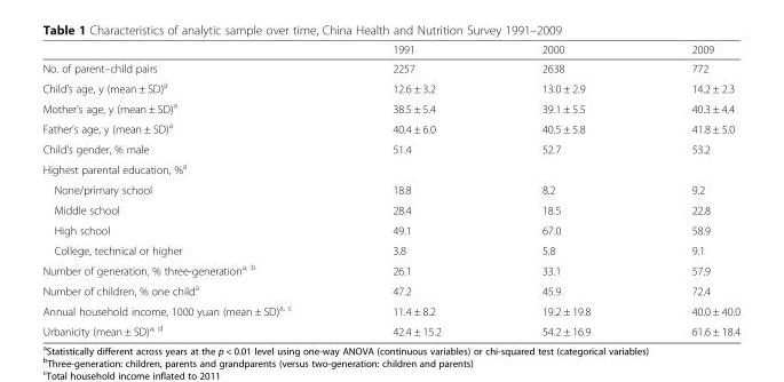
<table><thead><tr><td></td><td>1991</td><td>2000</td><td>2009</td></tr></thead><tbody><tr><td>No. of parent–child pairs</td><td>2257</td><td>2638</td><td>772</td></tr><tr><td>Child’s age, y (mean ± SD)<sup>a</sup></td><td>12.6 ± 3.2</td><td>13.0 ± 2.9</td><td>14.2 ± 2.3</td></tr><tr><td>Mother’s age, y (mean ± SD)<sup>a</sup></td><td>38.5 ± 5.4</td><td>39.1 ± 5.5</td><td>40.3 ± 4.4</td></tr><tr><td>Father’s age, y (mean ± SD)<sup>a</sup></td><td>40.4 ± 6.0</td><td>40.5 ± 5.8</td><td>41.8 ± 5.0</td></tr><tr><td>Child’s gender, % male</td><td>51.4</td><td>52.7</td><td>53.2</td></tr><tr><td colspan="4">Highest parental education, %<sup>a</sup></td></tr><tr><td>None/primary school</td><td>18.8</td><td>8.2</td><td>9.2</td></tr><tr><td>Middle school</td><td>28.4</td><td>18.5</td><td>22.8</td></tr><tr><td>High school</td><td>49.1</td><td>67.0</td><td>58.9</td></tr><tr><td>College, technical or higher</td><td>3.8</td><td>5.8</td><td>9.1</td></tr><tr><td>Number of generation, % three-generation<sup>a, b</sup></td><td>26.1</td><td>33.1</td><td>57.9</td></tr><tr><td>Number of children, % one child<sup>a</sup></td><td>47.2</td><td>45.9</td><td>72.4</td></tr><tr><td>Annual household income, 1000 yuan (mean ± SD)<sup>a, c</sup></td><td>11.4 ± 8.2</td><td>19.2 ± 19.8</td><td>40.0 ± 40.0</td></tr><tr><td>Urbanicity (mean ± SD)<sup>a, d</sup></td><td>42.4 ± 15.2</td><td>54.2 ± 16.9</td><td>61.6 ± 18.4</td></tr></tbody></table>